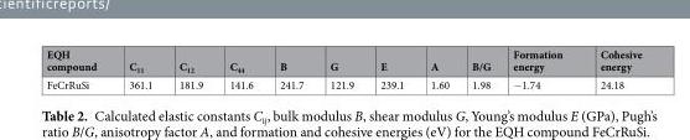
<table><thead><tr><td>EQH compound</td><td>C<sub>11</sub></td><td>C<sub>12</sub></td><td>C<sub>44</sub></td><td>B</td><td>G</td><td>E</td><td>A</td><td>B/G</td><td>Formation energy</td><td>Cohesive energy</td></tr></thead><tbody><tr><td>FeCrRuSi</td><td>361.1</td><td>181.9</td><td>141.6</td><td>241.7</td><td>121.9</td><td>239.1</td><td>1.60</td><td>1.98</td><td>−1.74</td><td>24.18</td></tr></tbody></table>